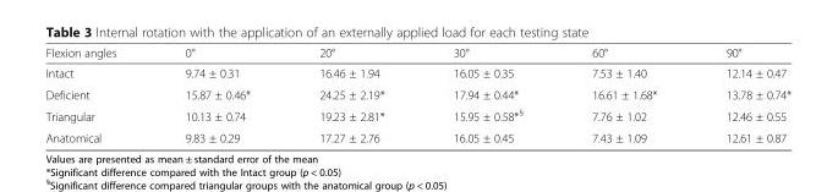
<table><thead><tr><td>Flexion angles</td><td>0°</td><td>20°</td><td>30°</td><td>60°</td><td>90°</td></tr></thead><tbody><tr><td>Intact</td><td>9.74 ± 0.31</td><td>16.46 ± 1.94</td><td>16.05 ± 0.35</td><td>7.53 ± 1.40</td><td>12.14 ± 0.47</td></tr><tr><td>Deficient</td><td>15.87 ± 0.46*</td><td>24.25 ± 2.19*</td><td>17.94 ± 0.44*</td><td>16.61 ± 1.68*</td><td>13.78 ± 0.74*</td></tr><tr><td>Triangular</td><td>10.13 ± 0.74</td><td>19.23 ± 2.81*</td><td>15.95 ± 0.58*<sup>§</sup></td><td>7.76 ± 1.02</td><td>12.46 ± 0.55</td></tr><tr><td>Anatomical</td><td>9.83 ± 0.29</td><td>17.27 ± 2.76</td><td>16.05 ± 0.45</td><td>7.43 ± 1.09</td><td>12.61 ± 0.87</td></tr></tbody></table>